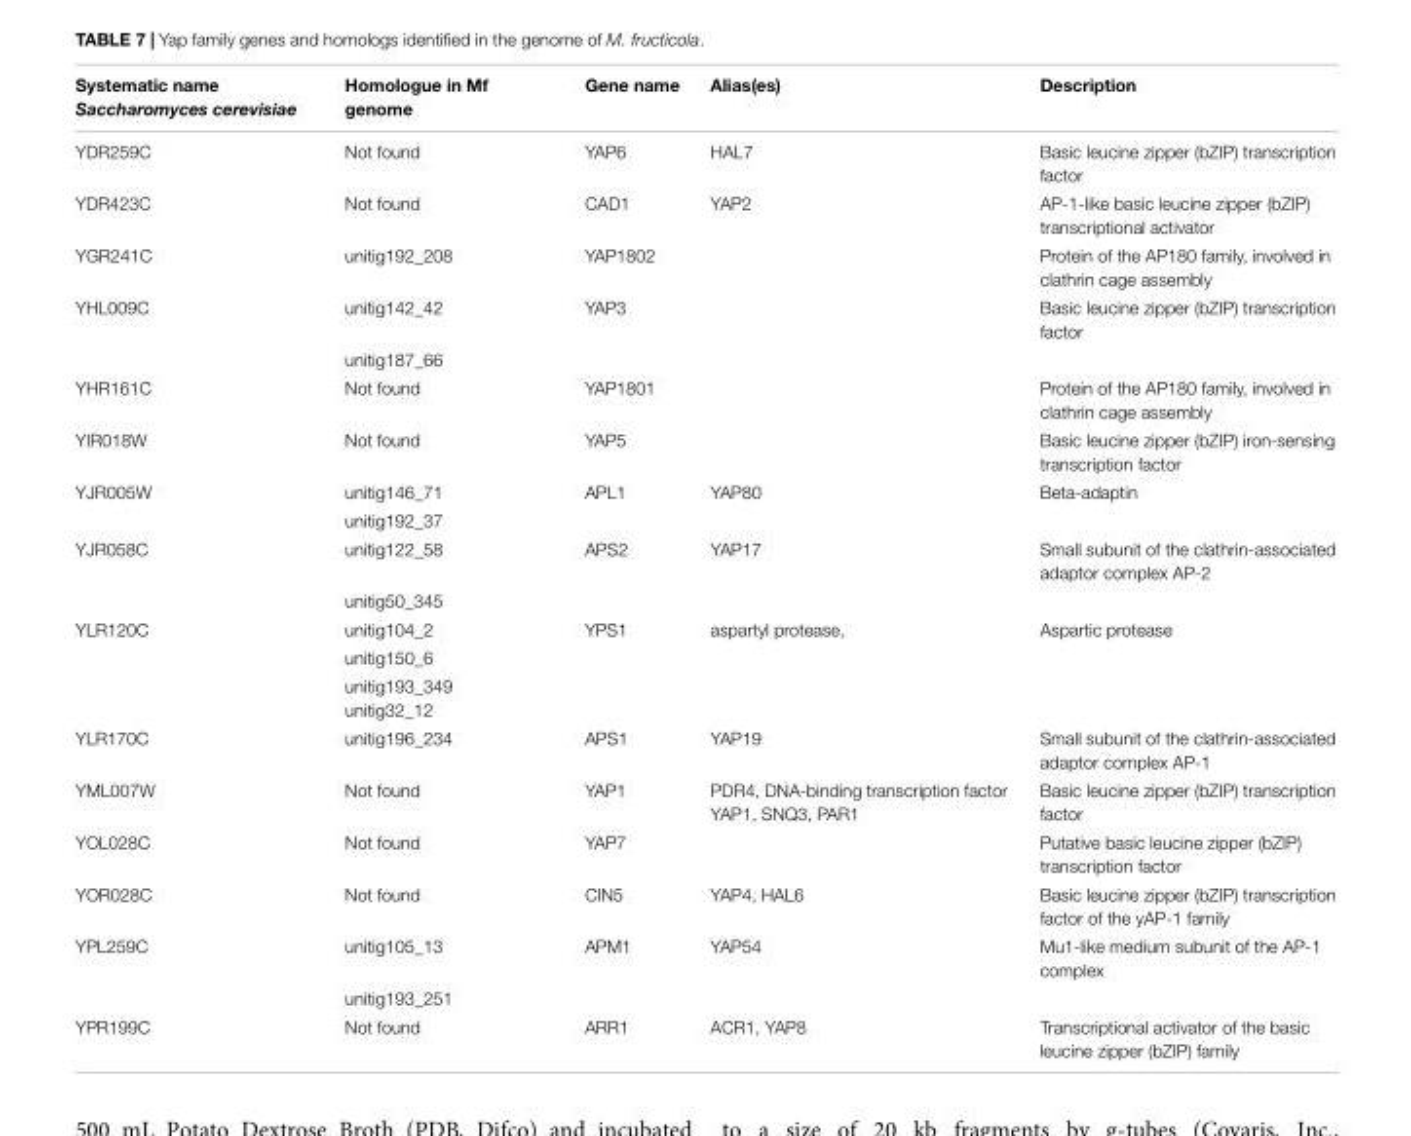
<table><thead><tr><td>Systematic name Saccharomyces cerevisiae</td><td>Homologue in Mf genome</td><td>Gene name</td><td>Alias(es)</td><td>Description</td></tr></thead><tbody><tr><td>YDR259C</td><td>Not found</td><td>YAP6</td><td>HAL7</td><td>Basic leucine zipper (bZIP) transcription factor</td></tr><tr><td>YDR423C</td><td>Not found</td><td>CAD1</td><td>YAP2</td><td>AP-1-like basic leucine zipper (bZIP) transcriptional activator</td></tr><tr><td>YGR241C</td><td>unitig192_208</td><td>YAP1802</td><td></td><td>Protein of the AP180 family, involved in clathrin cage assembly</td></tr><tr><td rowspan="2">YHL009C</td><td>unitig142_42</td><td>YAP3</td><td></td><td>Basic leucine zipper (bZIP) transcription factor</td></tr><tr><td>unitig187_66</td><td></td><td></td><td></td></tr><tr><td>YHR161C</td><td>Not found</td><td>YAP1801</td><td></td><td>Protein of the AP180 family, involved in clathrin cage assembly</td></tr><tr><td>YIR018W</td><td>Not found</td><td>YAP5</td><td></td><td>Basic leucine zipper (bZIP) iron-sensing transcription factor</td></tr><tr><td rowspan="2">YJR005W</td><td>unitig146_71</td><td>APL1</td><td>YAP80</td><td>Beta-adaptin</td></tr><tr><td>unitig192_37</td><td></td><td></td><td></td></tr><tr><td rowspan="2">YJR058C</td><td>unitig122_58</td><td>APS2</td><td>YAP17</td><td>Small subunit of the clathrin-associated adaptor complex AP-2</td></tr><tr><td>unitig50_345</td><td></td><td></td><td></td></tr><tr><td rowspan="3">YLR120C</td><td>unitig104_2</td><td>YPS1</td><td>aspartyl protease,</td><td>Aspartic protease</td></tr><tr><td>unitig150_6</td><td></td><td></td><td></td></tr><tr><td>unitig193_349 unitig32_12</td><td></td><td></td><td></td></tr><tr><td>YLR170C</td><td>unitig196_234</td><td>APS1</td><td>YAP19</td><td>Small subunit of the clathrin-associated adaptor complex AP-1</td></tr><tr><td>YML007W</td><td>Not found</td><td>YAP1</td><td>PDR4, DNA-binding transcription factor YAP1, SNQ3, PAR1</td><td>Basic leucine zipper (bZIP) transcription factor</td></tr><tr><td>YOL028C</td><td>Not found</td><td>YAP7</td><td></td><td>Putative basic leucine zipper (bZIP) transcription factor</td></tr><tr><td>YOR028C</td><td>Not found</td><td>CIN5</td><td>YAP4, HAL6</td><td>Basic leucine zipper (bZIP) transcription factor of the yAP-1 family</td></tr><tr><td rowspan="2">YPL259C</td><td>unitig105_13</td><td>APM1</td><td>YAP54</td><td>Mu1-like medium subunit of the AP-1 complex</td></tr><tr><td>unitig193_251</td><td></td><td></td><td></td></tr><tr><td>YPR199C</td><td>Not found</td><td>ARR1</td><td>ACR1, YAP8</td><td>Transcriptional activator of the basic leucine zipper (bZIP) family</td></tr></tbody></table>